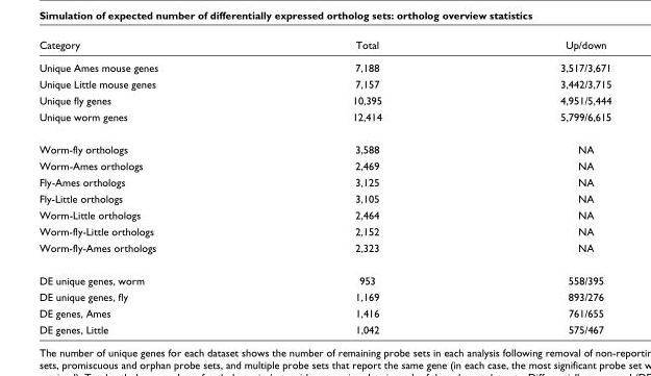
<table><thead><tr><td>Category</td><td>Total</td><td>Up/down</td></tr></thead><tbody><tr><td>Unique Ames mouse genes</td><td>7,188</td><td>3,517/3,671</td></tr><tr><td>Unique Little mouse genes</td><td>7,157</td><td>3,442/3,715</td></tr><tr><td>Unique fly genes</td><td>10,395</td><td>4,951/5,444</td></tr><tr><td>Unique worm genes</td><td>12,414</td><td>5,799/6,615</td></tr><tr><td>Worm-fly orthologs</td><td>3,588</td><td>NA</td></tr><tr><td>Worm-Ames orthologs</td><td>2,469</td><td>NA</td></tr><tr><td>Fly-Ames orthologs</td><td>3,125</td><td>NA</td></tr><tr><td>Fly-Little orthologs</td><td>3,105</td><td>NA</td></tr><tr><td>Worm-Little orthologs</td><td>2,464</td><td>NA</td></tr><tr><td>Worm-fly-Little orthologs</td><td>2,152</td><td>NA</td></tr><tr><td>Worm-fly-Ames orthologs</td><td>2,323</td><td>NA</td></tr><tr><td>DE unique genes, worm</td><td>953</td><td>558/395</td></tr><tr><td>DE unique genes, fly</td><td>1,169</td><td>893/276</td></tr><tr><td>DE genes, Ames</td><td>1,416</td><td>761/655</td></tr><tr><td>DE genes, Little</td><td>1,042</td><td>575/467</td></tr></tbody></table>